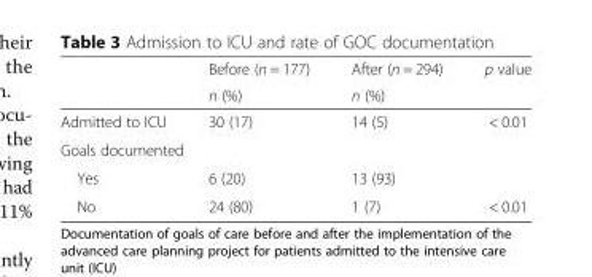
<table><thead><tr><td rowspan="2"></td><td rowspan="2">Before (n = 177) n (%)</td><td rowspan="2">After (n = 294) n (%)</td><td rowspan="2">p value</td></tr><tr></tr></thead><tbody><tr><td>Admitted to ICU</td><td>30 (17)</td><td>14 (5)</td><td>&lt; 0.01</td></tr><tr><td colspan="4">Goals documented</td></tr><tr><td>Yes</td><td>6 (20)</td><td>13 (93)</td><td></td></tr><tr><td>No</td><td>24 (80)</td><td>1 (7)</td><td>&lt; 0.01</td></tr></tbody></table>